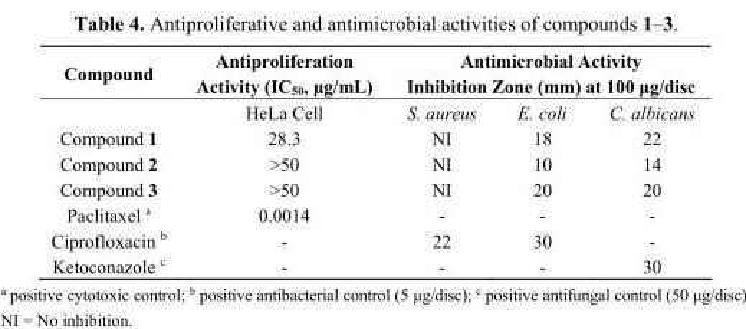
<table><thead><tr><td rowspan="2">Compound</td><td rowspan="2">Antiproliferation Activity (IC<sub>50</sub>, μg/mL) HeLa Cell</td><td colspan="3">Antimicrobial Activity Inhibition Zone (mm) at 100 μg/disc</td></tr><tr><td>S. aureus</td><td>E. coli</td><td>C. albicans</td></tr></thead><tbody><tr><td>Compound 1</td><td>28.3</td><td>NI</td><td>18</td><td>22</td></tr><tr><td>Compound 2</td><td>&gt;50</td><td>NI</td><td>10</td><td>14</td></tr><tr><td>Compound 3</td><td>&gt;50</td><td>NI</td><td>20</td><td>20</td></tr><tr><td>Paclitaxel <sup>a</sup></td><td>0.0014</td><td>-</td><td>-</td><td>-</td></tr><tr><td>Ciprofloxacin <sup>b</sup></td><td>-</td><td>22</td><td>30</td><td>-</td></tr><tr><td>Ketoconazole <sup>c</sup></td><td>-</td><td>-</td><td>-</td><td>30</td></tr></tbody></table>